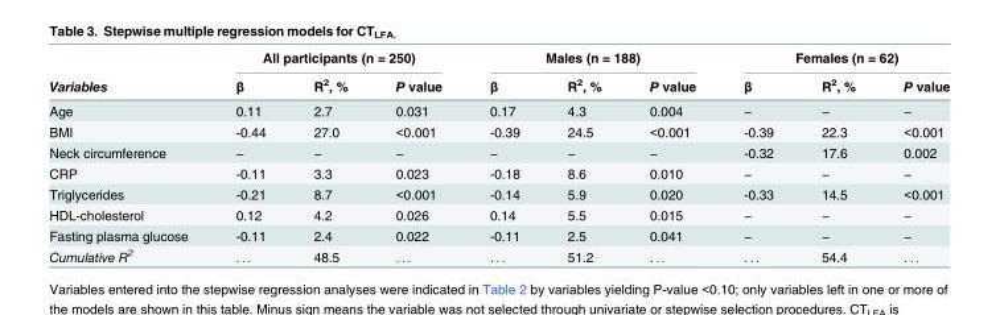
<table><thead><tr><td rowspan="2">Variables</td><td colspan="3">All participants (n = 250)</td><td colspan="3">Males (n = 188)</td><td colspan="3">Females (n = 62)</td></tr><tr><td>β</td><td>R<sup>2</sup>, %</td><td>P value</td><td>β</td><td>R<sup>2</sup>, %</td><td>P value</td><td>β</td><td>R<sup>2</sup>, %</td><td>P value</td></tr></thead><tbody><tr><td>Age</td><td>0.11</td><td>2.7</td><td>0.031</td><td>0.17</td><td>4.3</td><td>0.004</td><td>−</td><td>−</td><td>−</td></tr><tr><td>BMI</td><td>-0.44</td><td>27.0</td><td>&lt;0.001</td><td>-0.39</td><td>24.5</td><td>&lt;0.001</td><td>-0.39</td><td>22.3</td><td>&lt;0.001</td></tr><tr><td>Neck circumference</td><td>−</td><td>−</td><td>−</td><td>−</td><td>−</td><td>−</td><td>-0.32</td><td>17.6</td><td>0.002</td></tr><tr><td>CRP</td><td>-0.11</td><td>3.3</td><td>0.023</td><td>-0.18</td><td>8.6</td><td>0.010</td><td>−</td><td>−</td><td>−</td></tr><tr><td>Triglycerides</td><td>-0.21</td><td>8.7</td><td>&lt;0.001</td><td>-0.14</td><td>5.9</td><td>0.020</td><td>-0.33</td><td>14.5</td><td>&lt;0.001</td></tr><tr><td>HDL-cholesterol</td><td>0.12</td><td>4.2</td><td>0.026</td><td>0.14</td><td>5.5</td><td>0.015</td><td>−</td><td>−</td><td>−</td></tr><tr><td>Fasting plasma glucose</td><td>-0.11</td><td>2.4</td><td>0.022</td><td>-0.11</td><td>2.5</td><td>0.041</td><td>−</td><td>−</td><td>−</td></tr><tr><td>Cumulative R<sup>2</sup></td><td>. . .</td><td>48.5</td><td>. . .</td><td>. . .</td><td>51.2</td><td>. . .</td><td>. . .</td><td>54.4</td><td>. . .</td></tr></tbody></table>